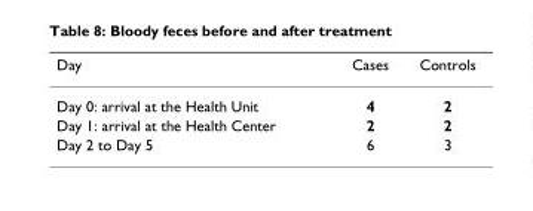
<table><thead><tr><td>Day</td><td>Cases</td><td>Controls</td></tr></thead><tbody><tr><td>Day 0: arrival at the Health Unit</td><td>4</td><td>2</td></tr><tr><td>Day 1: arrival at the Health Center</td><td>2</td><td>2</td></tr><tr><td>Day 2 to Day 5</td><td>6</td><td>3</td></tr></tbody></table>